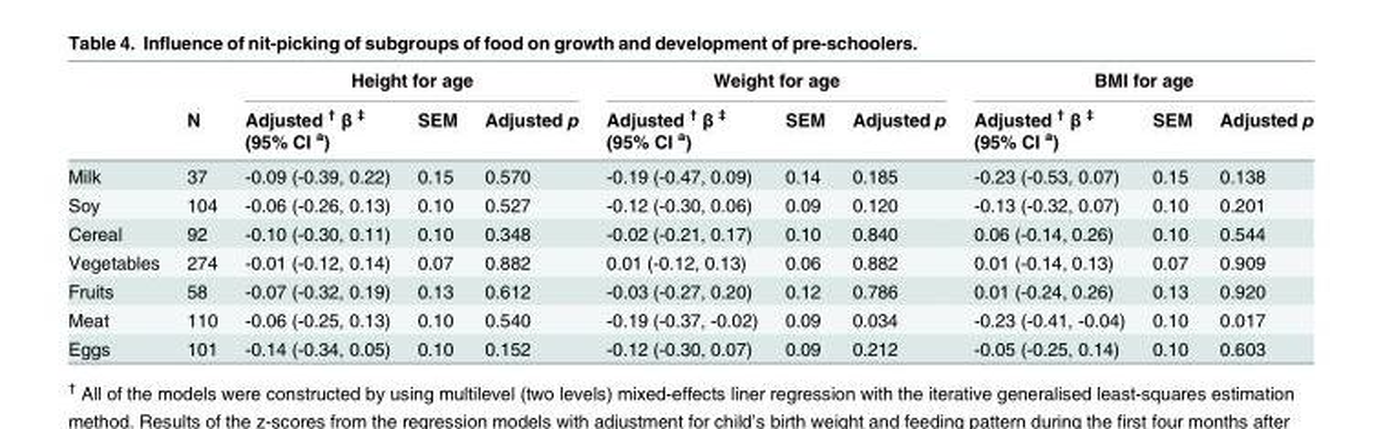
<table><thead><tr><td rowspan="2"></td><td rowspan="2">N</td><td colspan="3">Height for age</td><td colspan="3">Weight for age</td><td colspan="3">BMI for age</td></tr><tr><td>Adjusted <sup>†</sup> β <sup>‡</sup> (95% CI <sup>a</sup>)</td><td>SEM</td><td>Adjusted p</td><td>Adjusted <sup>†</sup> β <sup>‡</sup> (95% CI <sup>a</sup>)</td><td>SEM</td><td>Adjusted p</td><td>Adjusted <sup>†</sup> β <sup>‡</sup> (95% CI <sup>a</sup>)</td><td>SEM</td><td>Adjusted p</td></tr></thead><tbody><tr><td>Milk</td><td>37</td><td>-0.09 (-0.39, 0.22)</td><td>0.15</td><td>0.570</td><td>-0.19 (-0.47, 0.09)</td><td>0.14</td><td>0.185</td><td>-0.23 (-0.53, 0.07)</td><td>0.15</td><td>0.138</td></tr><tr><td>Soy</td><td>104</td><td>-0.06 (-0.26, 0.13)</td><td>0.10</td><td>0.527</td><td>-0.12 (-0.30, 0.06)</td><td>0.09</td><td>0.120</td><td>-0.13 (-0.32, 0.07)</td><td>0.10</td><td>0.201</td></tr><tr><td>Cereal</td><td>92</td><td>-0.10 (-0.30, 0.11)</td><td>0.10</td><td>0.348</td><td>-0.02 (-0.21, 0.17)</td><td>0.10</td><td>0.840</td><td>0.06 (-0.14, 0.26)</td><td>0.10</td><td>0.544</td></tr><tr><td>Vegetables</td><td>274</td><td>-0.01 (-0.12, 0.14)</td><td>0.07</td><td>0.882</td><td>0.01 (-0.12, 0.13)</td><td>0.06</td><td>0.882</td><td>0.01 (-0.14, 0.13)</td><td>0.07</td><td>0.909</td></tr><tr><td>Fruits</td><td>58</td><td>-0.07 (-0.32, 0.19)</td><td>0.13</td><td>0.612</td><td>-0.03 (-0.27, 0.20)</td><td>0.12</td><td>0.786</td><td>0.01 (-0.24, 0.26)</td><td>0.13</td><td>0.920</td></tr><tr><td>Meat</td><td>110</td><td>-0.06 (-0.25, 0.13)</td><td>0.10</td><td>0.540</td><td>-0.19 (-0.37, -0.02)</td><td>0.09</td><td>0.034</td><td>-0.23 (-0.41, -0.04)</td><td>0.10</td><td>0.017</td></tr><tr><td>Eggs</td><td>101</td><td>-0.14 (-0.34, 0.05)</td><td>0.10</td><td>0.152</td><td>-0.12 (-0.30, 0.07)</td><td>0.09</td><td>0.212</td><td>-0.05 (-0.25, 0.14)</td><td>0.10</td><td>0.603</td></tr></tbody></table>